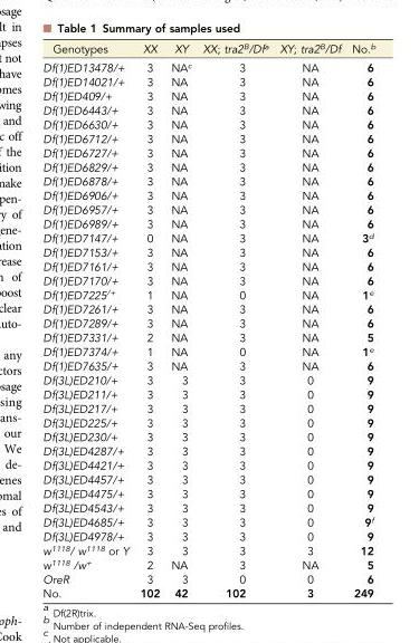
<table><thead><tr><td>Genotypes</td><td>XX</td><td>XY</td><td>XX; tra2<sup>B</sup>/Df<sup>a</sup></td><td>XY; tra2<sup>B</sup>/Df</td><td>No.<sup>b</sup></td></tr></thead><tbody><tr><td>Df(1)ED13478/+</td><td>3</td><td>NA<sup>c</sup></td><td>3</td><td>NA</td><td>6</td></tr><tr><td>Df(1)ED14021/+</td><td>3</td><td>NA</td><td>3</td><td>NA</td><td>6</td></tr><tr><td>Df(1)ED409/+</td><td>3</td><td>NA</td><td>3</td><td>NA</td><td>6</td></tr><tr><td>Df(1)ED6443/+</td><td>3</td><td>NA</td><td>3</td><td>NA</td><td>6</td></tr><tr><td>Df(1)ED6630/+</td><td>3</td><td>NA</td><td>3</td><td>NA</td><td>6</td></tr><tr><td>Df(1)ED6712/+</td><td>3</td><td>NA</td><td>3</td><td>NA</td><td>6</td></tr><tr><td>Df(1)ED6727/+</td><td>3</td><td>NA</td><td>3</td><td>NA</td><td>6</td></tr><tr><td>Df(1)ED6829/+</td><td>3</td><td>NA</td><td>3</td><td>NA</td><td>6</td></tr><tr><td>Df(1)ED6878/+</td><td>3</td><td>NA</td><td>3</td><td>NA</td><td>6</td></tr><tr><td>Df(1)ED6906/+</td><td>3</td><td>NA</td><td>3</td><td>NA</td><td>6</td></tr><tr><td>Df(1)ED6957/+</td><td>3</td><td>NA</td><td>3</td><td>NA</td><td>6</td></tr><tr><td>Df(1)ED6989/+</td><td>3</td><td>NA</td><td>3</td><td>NA</td><td>6</td></tr><tr><td>Df(1)ED7147/+</td><td>0</td><td>NA</td><td>3</td><td>NA</td><td>3<sup>d</sup></td></tr><tr><td>Df(1)ED7153/+</td><td>3</td><td>NA</td><td>3</td><td>NA</td><td>6</td></tr><tr><td>Df(1)ED7161/+</td><td>3</td><td>NA</td><td>3</td><td>NA</td><td>6</td></tr><tr><td>Df(1)ED7170/+</td><td>3</td><td>NA</td><td>3</td><td>NA</td><td>6</td></tr><tr><td>Df(1)ED7225<sup>/+</sup></td><td>1</td><td>NA</td><td>0</td><td>NA</td><td>1<sup>e</sup></td></tr><tr><td>Df(1)ED7261/+</td><td>3</td><td>NA</td><td>3</td><td>NA</td><td>6</td></tr><tr><td>Df(1)ED7289/+</td><td>3</td><td>NA</td><td>3</td><td>NA</td><td>6</td></tr><tr><td>Df(1)ED7331/+</td><td>2</td><td>NA</td><td>3</td><td>NA</td><td>5</td></tr><tr><td>Df(1)ED7374/+</td><td>1</td><td>NA</td><td>0</td><td>NA</td><td>1<sup>e</sup></td></tr><tr><td>Df(1)ED7635/+</td><td>3</td><td>NA</td><td>3</td><td>NA</td><td>6</td></tr><tr><td>Df(3L)ED210/+</td><td>3</td><td>3</td><td>3</td><td>0</td><td>9</td></tr><tr><td>Df(3L)ED211/+</td><td>3</td><td>3</td><td>3</td><td>0</td><td>9</td></tr><tr><td>Df(3L)ED217/+</td><td>3</td><td>3</td><td>3</td><td>0</td><td>9</td></tr><tr><td>Df(3L)ED225/+</td><td>3</td><td>3</td><td>3</td><td>0</td><td>9</td></tr><tr><td>Df(3L)ED230/+</td><td>3</td><td>3</td><td>3</td><td>0</td><td>9</td></tr><tr><td>Df(3L)ED4287/+</td><td>3</td><td>3</td><td>3</td><td>0</td><td>9</td></tr><tr><td>Df(3L)ED4421/+</td><td>3</td><td>3</td><td>3</td><td>0</td><td>9</td></tr><tr><td>Df(3L)ED4457/+</td><td>3</td><td>3</td><td>3</td><td>0</td><td>9</td></tr><tr><td>Df(3L)ED4475/+</td><td>3</td><td>3</td><td>3</td><td>0</td><td>9</td></tr><tr><td>Df(3L)ED4543/+</td><td>3</td><td>3</td><td>3</td><td>0</td><td>9</td></tr><tr><td>Df(3L)ED4685/+</td><td>3</td><td>3</td><td>3</td><td>0</td><td>9<sup>f</sup></td></tr><tr><td>Df(3L)ED4978/+</td><td>3</td><td>3</td><td>3</td><td>0</td><td>9</td></tr><tr><td>w<sup>1118</sup>/ w<sup>1118</sup> or Y</td><td>3</td><td>3</td><td>3</td><td>3</td><td>12</td></tr><tr><td>w<sup>1118</sup> /w<sup>+</sup></td><td>2</td><td>NA</td><td>3</td><td>NA</td><td>5</td></tr><tr><td>OreR</td><td>3</td><td>3</td><td>0</td><td>0</td><td>6</td></tr><tr><td>No.</td><td>102</td><td>42</td><td>102</td><td>3</td><td>249</td></tr></tbody></table>